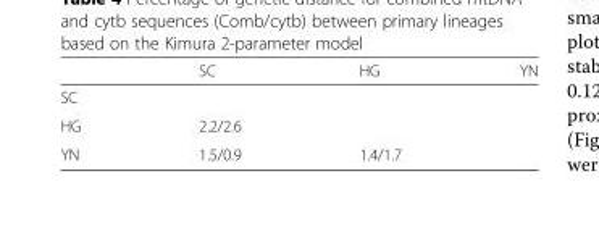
<table><thead><tr><td></td><td>SC</td><td>HG</td><td>YN</td></tr></thead><tbody><tr><td colspan="4">SC</td></tr><tr><td>HG</td><td>2.2/2.6</td><td></td><td></td></tr><tr><td>YN</td><td>1.5/0.9</td><td>1.4/1.7</td><td></td></tr></tbody></table>